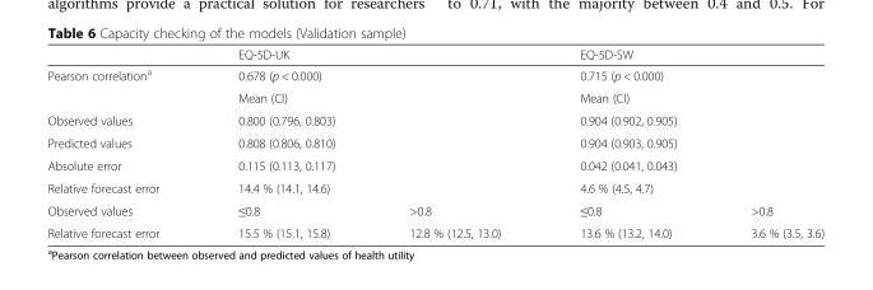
<table><thead><tr><td></td><td colspan="2">EQ-5D-UK</td><td colspan="2">EQ-5D-SW</td></tr></thead><tbody><tr><td rowspan="2">Pearson correlation<sup>a</sup></td><td colspan="2">0.678 (p &lt; 0.000)</td><td colspan="2">0.715 (p &lt; 0.000)</td></tr><tr><td colspan="2">Mean (CI)</td><td colspan="2">Mean (CI)</td></tr><tr><td>Observed values</td><td colspan="2">0.800 (0.796, 0.803)</td><td colspan="2">0.904 (0.902, 0.905)</td></tr><tr><td>Predicted values</td><td colspan="2">0.808 (0.806, 0.810)</td><td colspan="2">0.904 (0.903, 0.905)</td></tr><tr><td>Absolute error</td><td colspan="2">0.115 (0.113, 0.117)</td><td colspan="2">0.042 (0.041, 0.043)</td></tr><tr><td>Relative forecast error</td><td colspan="2">14.4 % (14.1, 14.6)</td><td colspan="2">4.6 % (4.5, 4.7)</td></tr><tr><td>Observed values</td><td>≤0.8</td><td>&gt;0.8</td><td>≤0.8</td><td>&gt;0.8</td></tr><tr><td>Relative forecast error</td><td>15.5 % (15.1, 15.8)</td><td>12.8 % (12.5, 13.0)</td><td>13.6 % (13.2, 14.0)</td><td>3.6 % (3.5, 3.6)</td></tr></tbody></table>